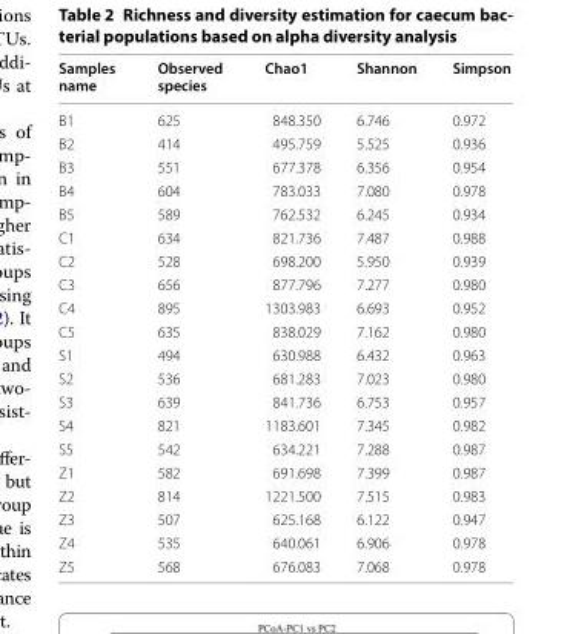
<table><thead><tr><td>Samples name</td><td>Observed species</td><td>Chao1</td><td>Shannon</td><td>Simpson</td></tr></thead><tbody><tr><td>B1</td><td>625</td><td>848.350</td><td>6.746</td><td>0.972</td></tr><tr><td>B2</td><td>414</td><td>495.759</td><td>5.525</td><td>0.936</td></tr><tr><td>B3</td><td>551</td><td>677.378</td><td>6.356</td><td>0.954</td></tr><tr><td>B4</td><td>604</td><td>783.033</td><td>7.080</td><td>0.978</td></tr><tr><td>B5</td><td>589</td><td>762.532</td><td>6.245</td><td>0.934</td></tr><tr><td>C1</td><td>634</td><td>821.736</td><td>7.487</td><td>0.988</td></tr><tr><td>C2</td><td>528</td><td>698.200</td><td>5.950</td><td>0.939</td></tr><tr><td>C3</td><td>656</td><td>877.796</td><td>7.277</td><td>0.980</td></tr><tr><td>C4</td><td>895</td><td>1303.983</td><td>6.693</td><td>0.952</td></tr><tr><td>C5</td><td>635</td><td>838.029</td><td>7.162</td><td>0.980</td></tr><tr><td>S1</td><td>494</td><td>630.988</td><td>6.432</td><td>0.963</td></tr><tr><td>S2</td><td>536</td><td>681.283</td><td>7.023</td><td>0.980</td></tr><tr><td>S3</td><td>639</td><td>841.736</td><td>6.753</td><td>0.957</td></tr><tr><td>S4</td><td>821</td><td>1183.601</td><td>7.345</td><td>0.982</td></tr><tr><td>S5</td><td>542</td><td>634.221</td><td>7.288</td><td>0.987</td></tr><tr><td>Z1</td><td>582</td><td>691.698</td><td>7.399</td><td>0.987</td></tr><tr><td>Z2</td><td>814</td><td>1221.500</td><td>7.515</td><td>0.983</td></tr><tr><td>Z3</td><td>507</td><td>625.168</td><td>6.122</td><td>0.947</td></tr><tr><td>Z4</td><td>535</td><td>640.061</td><td>6.906</td><td>0.978</td></tr><tr><td>Z5</td><td>568</td><td>676.083</td><td>7.068</td><td>0.978</td></tr></tbody></table>